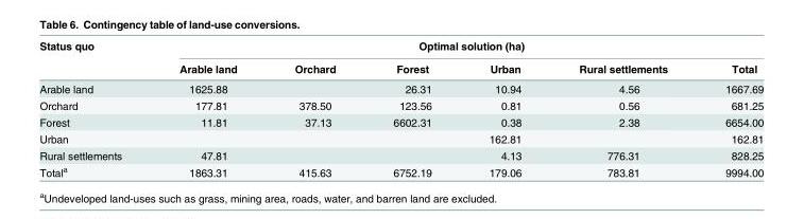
<table><thead><tr><td rowspan="2">Status quo</td><td colspan="6">Optimal solution (ha)</td></tr><tr><td>Arable land</td><td>Orchard</td><td>Forest</td><td>Urban</td><td>Rural settlements</td><td>Total</td></tr></thead><tbody><tr><td>Arable land</td><td>1625.88</td><td></td><td>26.31</td><td>10.94</td><td>4.56</td><td>1667.69</td></tr><tr><td>Orchard</td><td>177.81</td><td>378.50</td><td>123.56</td><td>0.81</td><td>0.56</td><td>681.25</td></tr><tr><td>Forest</td><td>11.81</td><td>37.13</td><td>6602.31</td><td>0.38</td><td>2.38</td><td>6654.00</td></tr><tr><td>Urban</td><td></td><td></td><td></td><td>162.81</td><td></td><td>162.81</td></tr><tr><td>Rural settlements</td><td>47.81</td><td></td><td></td><td>4.13</td><td>776.31</td><td>828.25</td></tr><tr><td>Total<sup>a</sup></td><td>1863.31</td><td>415.63</td><td>6752.19</td><td>179.06</td><td>783.81</td><td>9994.00</td></tr></tbody></table>